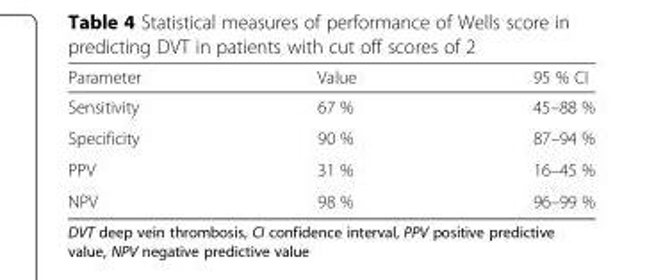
<table><thead><tr><td>Parameter</td><td>Value</td><td>95 % CI</td></tr></thead><tbody><tr><td>Sensitivity</td><td>67 %</td><td>45–88 %</td></tr><tr><td>Specificity</td><td>90 %</td><td>87–94 %</td></tr><tr><td>PPV</td><td>31 %</td><td>16–45 %</td></tr><tr><td>NPV</td><td>98 %</td><td>96–99 %</td></tr></tbody></table>